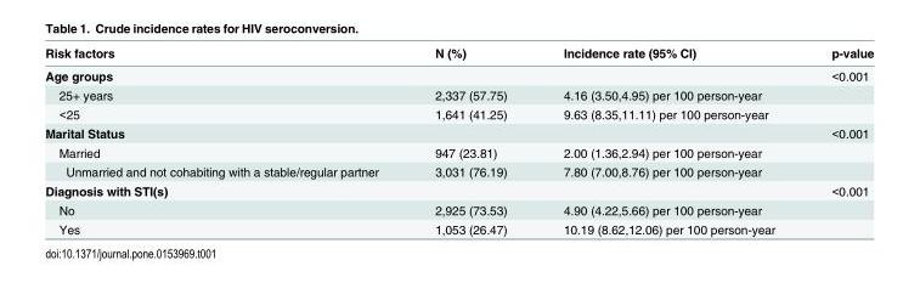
<table><thead><tr><td>Risk factors</td><td>N (%)</td><td>Incidence rate (95% CI)</td><td>p-value</td></tr></thead><tbody><tr><td>Age groups</td><td></td><td></td><td>&lt;0.001</td></tr><tr><td>25+ years</td><td>2,337 (57.75)</td><td>4.16 (3.50,4.95) per 100 person-year</td><td></td></tr><tr><td>&lt;25</td><td>1,641 (41.25)</td><td>9.63 (8.35,11.11) per 100 person-year</td><td></td></tr><tr><td>Marital Status</td><td></td><td></td><td>&lt;0.001</td></tr><tr><td>Married</td><td>947 (23.81)</td><td>2.00 (1.36,2.94) per 100 person-year</td><td></td></tr><tr><td>Unmarried and not cohabiting with a stable/regular partner</td><td>3,031 (76.19)</td><td>7.80 (7.00,8.76) per 100 person-year</td><td></td></tr><tr><td>Diagnosis with STI(s)</td><td></td><td></td><td>&lt;0.001</td></tr><tr><td>No</td><td>2,925 (73.53)</td><td>4.90 (4.22,5.66) per 100 person-year</td><td></td></tr><tr><td>Yes</td><td>1,053 (26.47)</td><td>10.19 (8.62,12.06) per 100 person-year</td><td></td></tr></tbody></table>